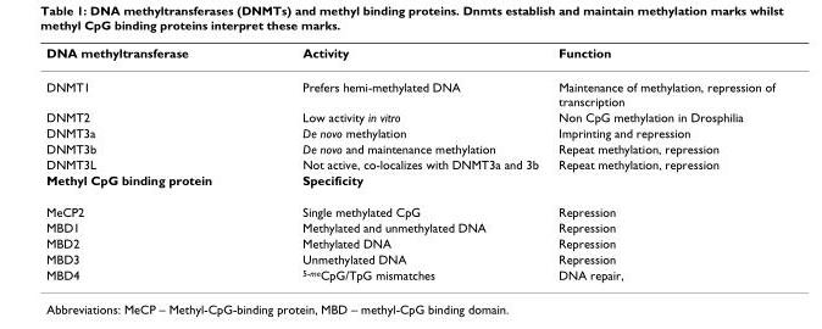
<table><thead><tr><td>DNA methyltransferase</td><td>Activity</td><td>Function</td></tr></thead><tbody><tr><td>DNMT1</td><td>Prefers hemi-methylated DNA</td><td>Maintenance of methylation, repression of transcription</td></tr><tr><td>DNMT2</td><td>Low activity in vitro</td><td>Non CpG methylation in Drosphilia</td></tr><tr><td>DNMT3a</td><td>De novo methylation</td><td>Imprinting and repression</td></tr><tr><td>DNMT3b</td><td>De novo and maintenance methylation</td><td>Repeat methylation, repression</td></tr><tr><td>DNMT3L</td><td>Not active, co-localizes with DNMT3a and 3b</td><td>Repeat methylation, repression</td></tr><tr><td>Methyl CpG binding protein</td><td>Specificity</td><td></td></tr><tr><td>MeCP2</td><td>Single methylated CpG</td><td>Repression</td></tr><tr><td>MBD1</td><td>Methylated and unmethylated DNA</td><td>Repression</td></tr><tr><td>MBD2</td><td>Methylated DNA</td><td>Repression</td></tr><tr><td>MBD3</td><td>Unmethylated DNA</td><td>Repression</td></tr><tr><td>MBD4</td><td><sup>5-me</sup>CpG/TpG mismatches</td><td>DNA repair,</td></tr></tbody></table>